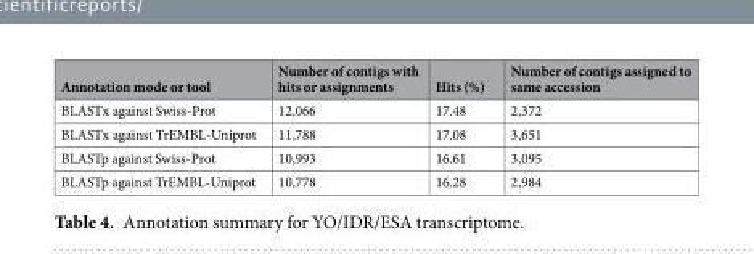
<table><thead><tr><td>Annotation mode or tool</td><td>Number of contigs with hits or assignments</td><td>Hits (%)</td><td>Number of contigs assigned to same accession</td></tr></thead><tbody><tr><td>BLASTx against Swiss-Prot</td><td>12,066</td><td>17.48</td><td>2,372</td></tr><tr><td>BLASTx against TrEMBL-Uniprot</td><td>11,788</td><td>17.08</td><td>3,651</td></tr><tr><td>BLASTp against Swiss-Prot</td><td>10,993</td><td>16.61</td><td>3,095</td></tr><tr><td>BLASTp against TrEMBL-Uniprot</td><td>10,778</td><td>16.28</td><td>2,984</td></tr></tbody></table>